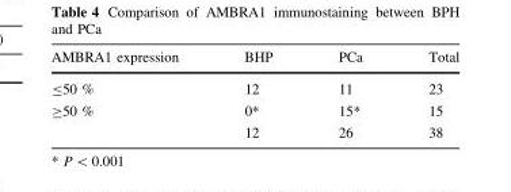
<table><thead><tr><td>AMBRA1 expression</td><td>BHP</td><td>PCa</td><td>Total</td></tr></thead><tbody><tr><td>≤50 %</td><td>12</td><td>11</td><td>23</td></tr><tr><td rowspan="2">≥50 %</td><td>0*</td><td>15*</td><td>15</td></tr><tr><td>12</td><td>26</td><td>38</td></tr></tbody></table>